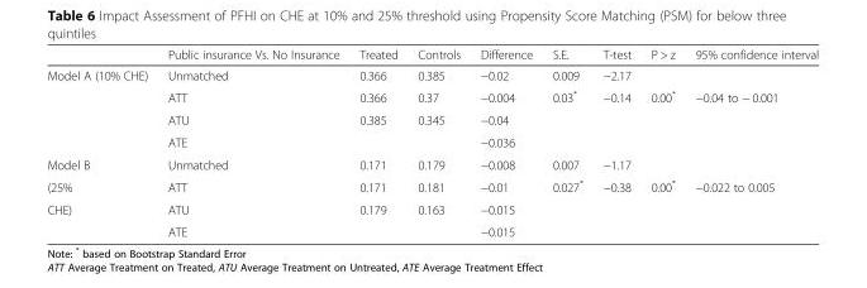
<table><thead><tr><td></td><td>Public insurance Vs. No Insurance</td><td>Treated</td><td>Controls</td><td>Difference</td><td>S.E.</td><td>T-test</td><td>P &gt; z</td><td>95% confidence interval</td></tr></thead><tbody><tr><td rowspan="4">Model A (10% CHE)</td><td>Unmatched</td><td>0.366</td><td>0.385</td><td>−0.02</td><td>0.009</td><td>−2.17</td><td></td><td></td></tr><tr><td>ATT</td><td>0.366</td><td>0.37</td><td>−0.004</td><td>0.03*</td><td>−0.14</td><td>0.00*</td><td>−0.04 to − 0.001</td></tr><tr><td>ATU</td><td>0.385</td><td>0.345</td><td>−0.04</td><td></td><td></td><td></td><td></td></tr><tr><td>ATE</td><td></td><td></td><td>−0.036</td><td></td><td></td><td></td><td></td></tr><tr><td>Model B</td><td>Unmatched</td><td>0.171</td><td>0.179</td><td>−0.008</td><td>0.007</td><td>−1.17</td><td></td><td></td></tr><tr><td>(25%</td><td>ATT</td><td>0.171</td><td>0.181</td><td>−0.01</td><td>0.027*</td><td>−0.38</td><td>0.00*</td><td>−0.022 to 0.005</td></tr><tr><td rowspan="2">CHE)</td><td>ATU</td><td>0.179</td><td>0.163</td><td>−0.015</td><td></td><td></td><td></td><td></td></tr><tr><td>ATE</td><td></td><td></td><td>−0.015</td><td></td><td></td><td></td><td></td></tr></tbody></table>